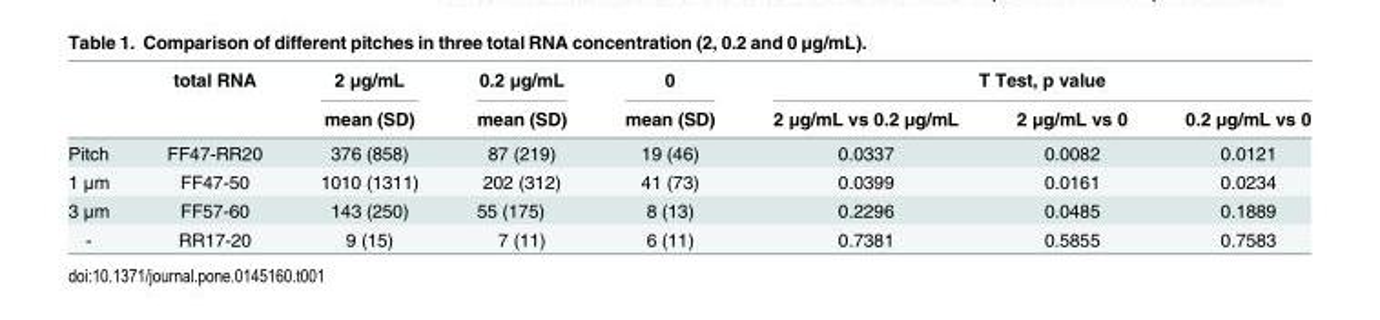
<table><thead><tr><td rowspan="2"></td><td rowspan="2">total RNA</td><td rowspan="2">2 μg/mL mean (SD)</td><td rowspan="2">0.2 μg/mL mean (SD)</td><td rowspan="2">0 mean (SD)</td><td colspan="3">T Test, p value</td></tr><tr><td>2 μg/mL vs 0.2 μg/mL</td><td>2 μg/mL vs 0</td><td>0.2 μg/mL vs 0</td></tr></thead><tbody><tr><td>Pitch</td><td>FF47-RR20</td><td>376 (858)</td><td>87 (219)</td><td>19 (46)</td><td>0.0337</td><td>0.0082</td><td>0.0121</td></tr><tr><td>1 μm</td><td>FF47-50</td><td>1010 (1311)</td><td>202 (312)</td><td>41 (73)</td><td>0.0399</td><td>0.0161</td><td>0.0234</td></tr><tr><td>3 μm</td><td>FF57-60</td><td>143 (250)</td><td>55 (175)</td><td>8 (13)</td><td>0.2296</td><td>0.0485</td><td>0.1889</td></tr><tr><td>-</td><td>RR17-20</td><td>9 (15)</td><td>7 (11)</td><td>6 (11)</td><td>0.7381</td><td>0.5855</td><td>0.7583</td></tr></tbody></table>